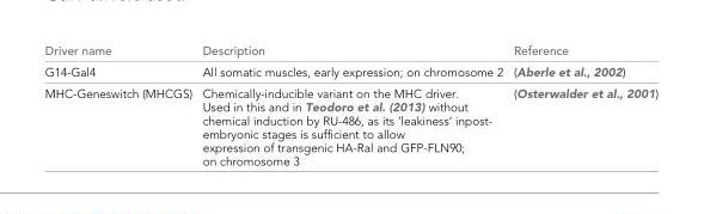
<table><thead><tr><td>Driver name</td><td>Description</td><td>Reference</td></tr></thead><tbody><tr><td>G14-Gal4</td><td>All somatic muscles, early expression; on chromosome 2</td><td>(Aberle et al., 2002)</td></tr><tr><td>MHC-Geneswitch (MHCGS)</td><td>Chemically-inducible variant on the MHC driver. Used in this and in Teodoro et al. (2013) without chemical induction by RU-486, as its ‘leakiness’ inpost- embryonic stages is sufficient to allow expression of transgenic HA-Ral and GFP-FLN90; on chromosome 3</td><td>(Osterwalder et al., 2001)</td></tr></tbody></table>